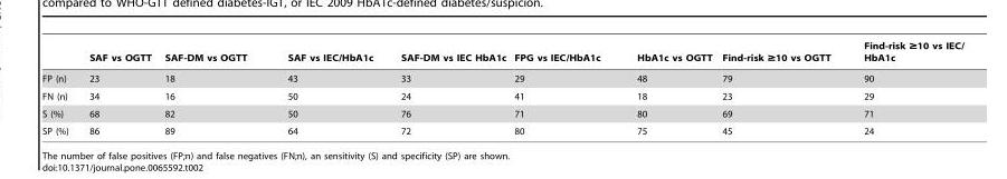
<table><thead><tr><td></td><td>SAF vs OGTT</td><td>SAF-DM vs OGTT</td><td>SAF vs IEC/HbA1c</td><td>SAF-DM vs IEC HbA1c</td><td>FPG vs IEC/HbA1c</td><td>HbA1c vs OGTT</td><td>Find-risk ≥10 vs OGTT</td><td>Find-risk ≥10 vs IEC/ HbA1c</td></tr></thead><tbody><tr><td>FP (n)</td><td>23</td><td>18</td><td>43</td><td>33</td><td>29</td><td>48</td><td>79</td><td>90</td></tr><tr><td>FN (n)</td><td>34</td><td>16</td><td>50</td><td>24</td><td>41</td><td>18</td><td>23</td><td>29</td></tr><tr><td>S (%)</td><td>68</td><td>82</td><td>50</td><td>76</td><td>71</td><td>80</td><td>69</td><td>71</td></tr><tr><td>SP (%)</td><td>86</td><td>89</td><td>64</td><td>72</td><td>80</td><td>75</td><td>45</td><td>24</td></tr></tbody></table>